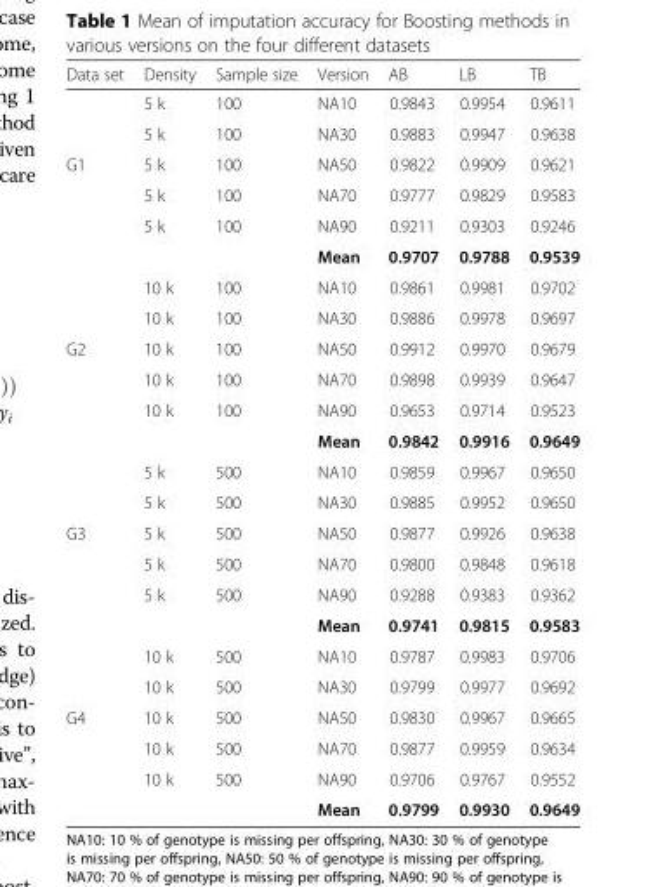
<table><thead><tr><td>Data set</td><td>Density</td><td>Sample size</td><td>Version</td><td>AB</td><td>LB</td><td>TB</td></tr></thead><tbody><tr><td></td><td>5 k</td><td>100</td><td>NA10</td><td>0.9843</td><td>0.9954</td><td>0.9611</td></tr><tr><td></td><td>5 k</td><td>100</td><td>NA30</td><td>0.9883</td><td>0.9947</td><td>0.9638</td></tr><tr><td rowspan="6">G1</td><td>5 k</td><td>100</td><td>NA50</td><td>0.9822</td><td>0.9909</td><td>0.9621</td></tr><tr><td>5 k</td><td>100</td><td>NA70</td><td>0.9777</td><td>0.9829</td><td>0.9583</td></tr><tr><td>5 k</td><td>100</td><td>NA90</td><td>0.9211</td><td>0.9303</td><td>0.9246</td></tr><tr><td></td><td></td><td>Mean</td><td>0.9707</td><td>0.9788</td><td>0.9539</td></tr><tr><td>10 k</td><td>100</td><td>NA10</td><td>0.9861</td><td>0.9981</td><td>0.9702</td></tr><tr><td>10 k</td><td>100</td><td>NA30</td><td>0.9886</td><td>0.9978</td><td>0.9697</td></tr><tr><td rowspan="6">G2</td><td>10 k</td><td>100</td><td>NA50</td><td>0.9912</td><td>0.9970</td><td>0.9679</td></tr><tr><td>10 k</td><td>100</td><td>NA70</td><td>0.9898</td><td>0.9939</td><td>0.9647</td></tr><tr><td>10 k</td><td>100</td><td>NA90</td><td>0.9653</td><td>0.9714</td><td>0.9523</td></tr><tr><td></td><td></td><td>Mean</td><td>0.9842</td><td>0.9916</td><td>0.9649</td></tr><tr><td>5 k</td><td>500</td><td>NA10</td><td>0.9859</td><td>0.9967</td><td>0.9650</td></tr><tr><td>5 k</td><td>500</td><td>NA30</td><td>0.9885</td><td>0.9952</td><td>0.9650</td></tr><tr><td rowspan="6">G3</td><td>5 k</td><td>500</td><td>NA50</td><td>0.9877</td><td>0.9926</td><td>0.9638</td></tr><tr><td>5 k</td><td>500</td><td>NA70</td><td>0.9800</td><td>0.9848</td><td>0.9618</td></tr><tr><td>5 k</td><td>500</td><td>NA90</td><td>0.9288</td><td>0.9383</td><td>0.9362</td></tr><tr><td></td><td></td><td>Mean</td><td>0.9741</td><td>0.9815</td><td>0.9583</td></tr><tr><td>10 k</td><td>500</td><td>NA10</td><td>0.9787</td><td>0.9983</td><td>0.9706</td></tr><tr><td>10 k</td><td>500</td><td>NA30</td><td>0.9799</td><td>0.9977</td><td>0.9692</td></tr><tr><td rowspan="4">G4</td><td>10 k</td><td>500</td><td>NA50</td><td>0.9830</td><td>0.9967</td><td>0.9665</td></tr><tr><td>10 k</td><td>500</td><td>NA70</td><td>0.9877</td><td>0.9959</td><td>0.9634</td></tr><tr><td>10 k</td><td>500</td><td>NA90</td><td>0.9706</td><td>0.9767</td><td>0.9552</td></tr><tr><td></td><td></td><td>Mean</td><td>0.9799</td><td>0.9930</td><td>0.9649</td></tr></tbody></table>